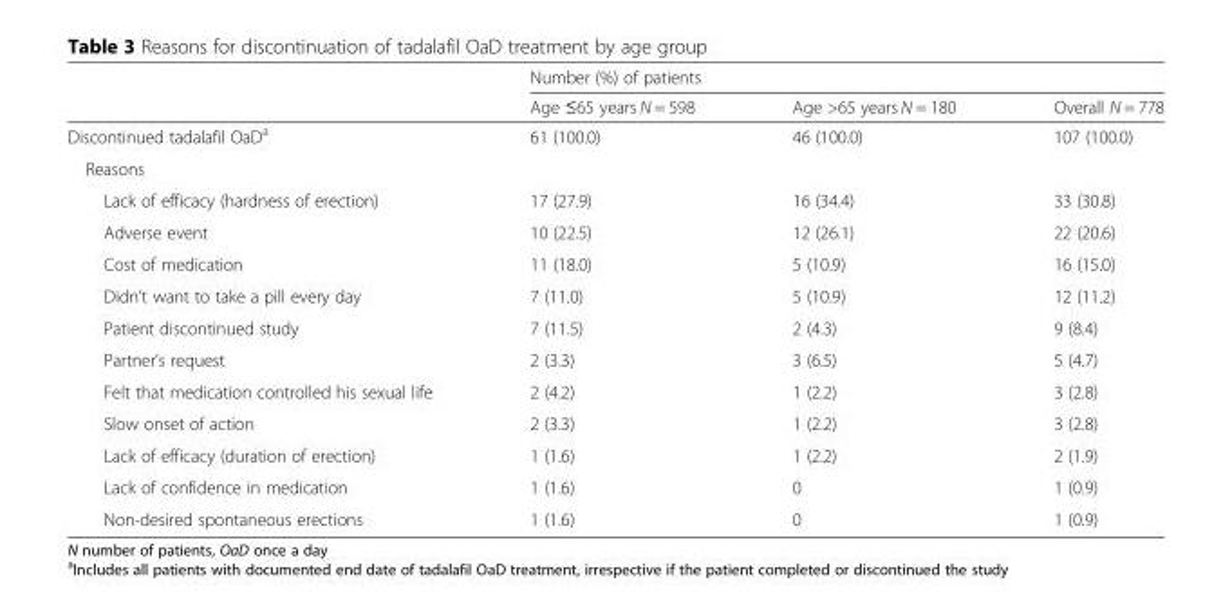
<table><thead><tr><td rowspan="2"></td><td colspan="3">Number (%) of patients</td></tr><tr><td>Age ≤65 years N = 598</td><td>Age &gt;65 years N = 180</td><td>Overall N = 778</td></tr></thead><tbody><tr><td>Discontinued tadalafil OaD<sup>a</sup></td><td>61 (100.0)</td><td>46 (100.0)</td><td>107 (100.0)</td></tr><tr><td colspan="4">Reasons</td></tr><tr><td>Lack of efficacy (hardness of erection)</td><td>17 (27.9)</td><td>16 (34.4)</td><td>33 (30.8)</td></tr><tr><td>Adverse event</td><td>10 (22.5)</td><td>12 (26.1)</td><td>22 (20.6)</td></tr><tr><td>Cost of medication</td><td>11 (18.0)</td><td>5 (10.9)</td><td>16 (15.0)</td></tr><tr><td>Didn’t want to take a pill every day</td><td>7 (11.0)</td><td>5 (10.9)</td><td>12 (11.2)</td></tr><tr><td>Patient discontinued study</td><td>7 (11.5)</td><td>2 (4.3)</td><td>9 (8.4)</td></tr><tr><td>Partner’s request</td><td>2 (3.3)</td><td>3 (6.5)</td><td>5 (4.7)</td></tr><tr><td>Felt that medication controlled his sexual life</td><td>2 (4.2)</td><td>1 (2.2)</td><td>3 (2.8)</td></tr><tr><td>Slow onset of action</td><td>2 (3.3)</td><td>1 (2.2)</td><td>3 (2.8)</td></tr><tr><td>Lack of efficacy (duration of erection)</td><td>1 (1.6)</td><td>1 (2.2)</td><td>2 (1.9)</td></tr><tr><td>Lack of confidence in medication</td><td>1 (1.6)</td><td>0</td><td>1 (0.9)</td></tr><tr><td>Non-desired spontaneous erections</td><td>1 (1.6)</td><td>0</td><td>1 (0.9)</td></tr></tbody></table>